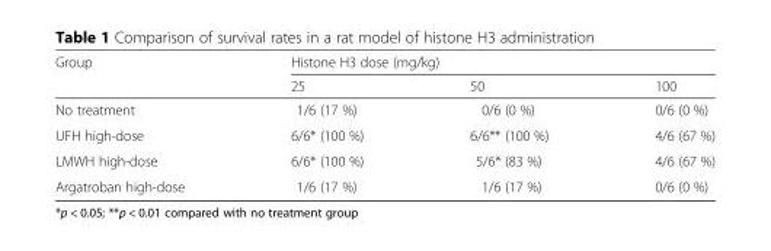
<table><thead><tr><td rowspan="2">Group</td><td colspan="3">Histone H3 dose (mg/kg)</td></tr><tr><td>25</td><td>50</td><td>100</td></tr></thead><tbody><tr><td>No treatment</td><td>1/6 (17 %)</td><td>0/6 (0 %)</td><td>0/6 (0 %)</td></tr><tr><td>UFH high-dose</td><td>6/6* (100 %)</td><td>6/6** (100 %)</td><td>4/6 (67 %)</td></tr><tr><td>LMWH high-dose</td><td>6/6* (100 %)</td><td>5/6* (83 %)</td><td>4/6 (67 %)</td></tr><tr><td>Argatroban high-dose</td><td>1/6 (17 %)</td><td>1/6 (17 %)</td><td>0/6 (0 %)</td></tr></tbody></table>